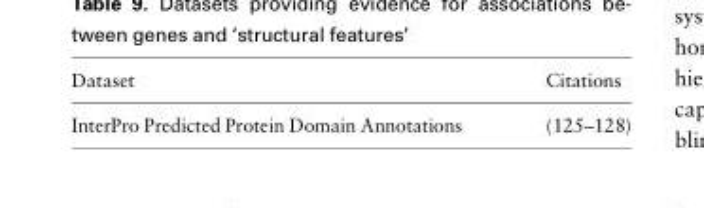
<table><thead><tr><td>Dataset</td><td>Citations</td></tr></thead><tbody><tr><td>InterPro Predicted Protein Domain Annotations</td><td>(125–128)</td></tr></tbody></table>